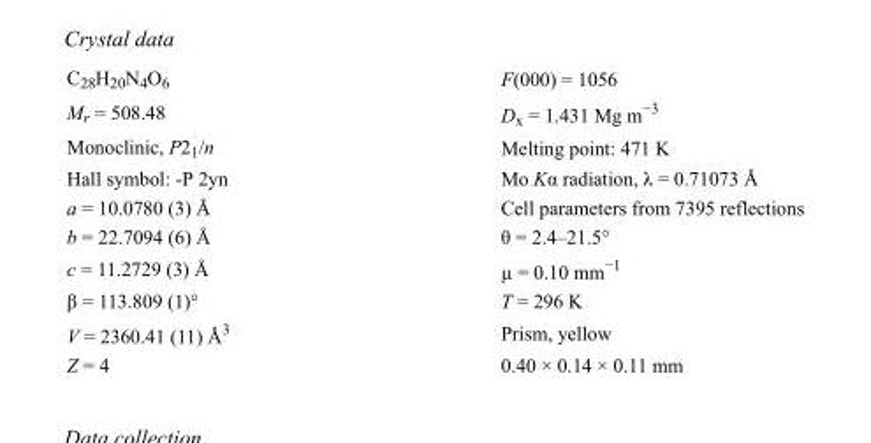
<table><tbody><tr><td>C<sub>28</sub>H<sub>20</sub>N<sub>4</sub>O<sub>6</sub></td><td>F(000) = 1056</td></tr><tr><td>M<sub>r</sub> = 508.48</td><td>D<sub>x</sub> = 1.431 Mg m<sup>−3</sup></td></tr><tr><td>Monoclinic, P2<sub>1</sub>/n</td><td>Melting point: 471 K</td></tr><tr><td>Hall symbol: -P 2yn</td><td>Mo Kα radiation, λ = 0.71073 Å</td></tr><tr><td>a = 10.0780 (3) Å</td><td>Cell parameters from 7395 reflections</td></tr><tr><td>b = 22.7094 (6) Å</td><td>θ = 2.4–21.5°</td></tr><tr><td>c = 11.2729 (3) Å</td><td>µ = 0.10 mm<sup>−1</sup></td></tr><tr><td>β = 113.809 (1)°</td><td>T = 296 K</td></tr><tr><td>V = 2360.41 (11) Å<sup>3</sup></td><td>Prism, yellow</td></tr><tr><td>Z = 4</td><td>0.40 × 0.14 × 0.11 mm</td></tr></tbody></table>